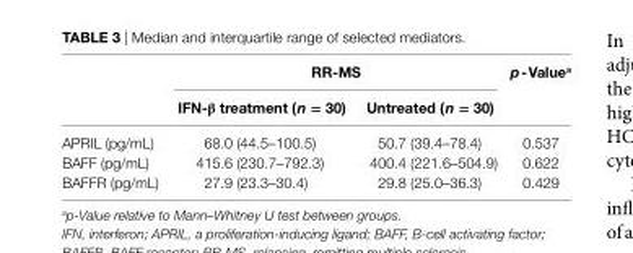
<table><thead><tr><td rowspan="2"></td><td colspan="2">rr-Ms</td><td rowspan="2">p-Value<sup>a</sup></td></tr><tr><td>iFn-β treatment (n = 30)</td><td>Untreated (n = 30)</td></tr></thead><tbody><tr><td>APRIL (pg/mL)</td><td>68.0 (44.5–100.5)</td><td>50.7 (39.4–78.4)</td><td>0.537</td></tr><tr><td>BAFF (pg/mL)</td><td>415.6 (230.7–792.3)</td><td>400.4 (221.6–504.9)</td><td>0.622</td></tr><tr><td>BAFFR (pg/mL)</td><td>27.9 (23.3–30.4)</td><td>29.8 (25.0–36.3)</td><td>0.429</td></tr></tbody></table>